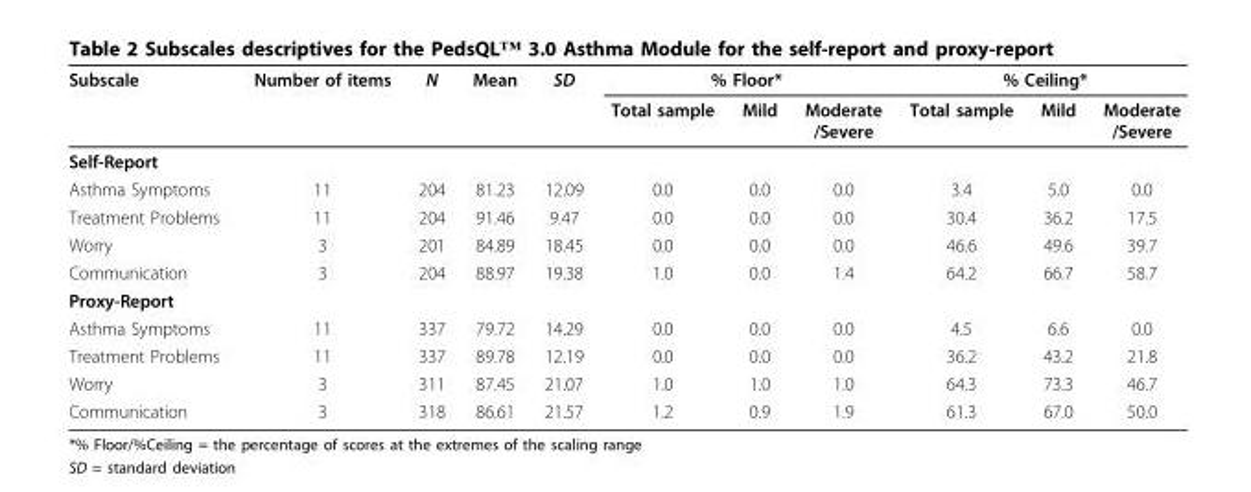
<table><thead><tr><td rowspan="2">Subscale</td><td rowspan="2">Number of items</td><td rowspan="2">N</td><td rowspan="2">Mean</td><td rowspan="2">SD</td><td colspan="3">% Floor*</td><td colspan="3">% Ceiling*</td></tr><tr><td>Total sample</td><td>Mild</td><td>Moderate /Severe</td><td>Total sample</td><td>Mild</td><td>Moderate /Severe</td></tr></thead><tbody><tr><td colspan="11">Self-Report</td></tr><tr><td>Asthma Symptoms</td><td>11</td><td>204</td><td>81.23</td><td>12.09</td><td>0.0</td><td>0.0</td><td>0.0</td><td>3.4</td><td>5.0</td><td>0.0</td></tr><tr><td>Treatment Problems</td><td>11</td><td>204</td><td>91.46</td><td>9.47</td><td>0.0</td><td>0.0</td><td>0.0</td><td>30.4</td><td>36.2</td><td>17.5</td></tr><tr><td>Worry</td><td>3</td><td>201</td><td>84.89</td><td>18.45</td><td>0.0</td><td>0.0</td><td>0.0</td><td>46.6</td><td>49.6</td><td>39.7</td></tr><tr><td>Communication</td><td>3</td><td>204</td><td>88.97</td><td>19.38</td><td>1.0</td><td>0.0</td><td>1.4</td><td>64.2</td><td>66.7</td><td>58.7</td></tr><tr><td colspan="11">Proxy-Report</td></tr><tr><td>Asthma Symptoms</td><td>11</td><td>337</td><td>79.72</td><td>14.29</td><td>0.0</td><td>0.0</td><td>0.0</td><td>4.5</td><td>6.6</td><td>0.0</td></tr><tr><td>Treatment Problems</td><td>11</td><td>337</td><td>89.78</td><td>12.19</td><td>0.0</td><td>0.0</td><td>0.0</td><td>36.2</td><td>43.2</td><td>21.8</td></tr><tr><td>Worry</td><td>3</td><td>311</td><td>87.45</td><td>21.07</td><td>1.0</td><td>1.0</td><td>1.0</td><td>64.3</td><td>73.3</td><td>46.7</td></tr><tr><td>Communication</td><td>3</td><td>318</td><td>86.61</td><td>21.57</td><td>1.2</td><td>0.9</td><td>1.9</td><td>61.3</td><td>67.0</td><td>50.0</td></tr></tbody></table>